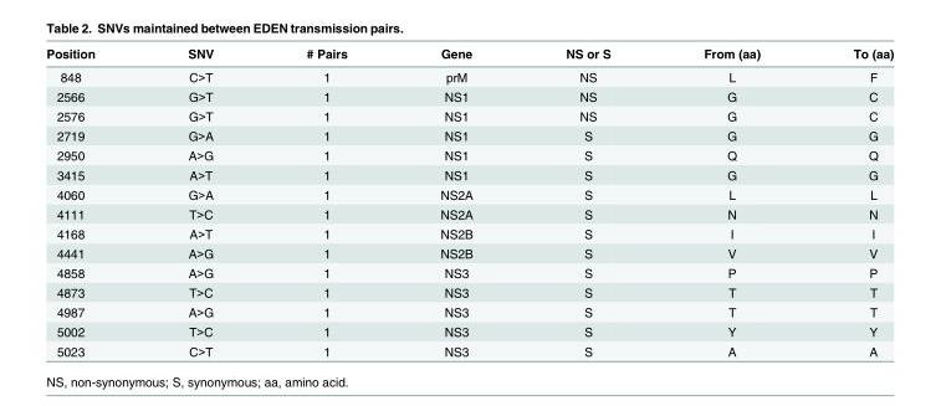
<table><thead><tr><td>Position</td><td>SNV</td><td># Pairs</td><td>Gene</td><td>NS or S</td><td>From (aa)</td><td>To (aa)</td></tr></thead><tbody><tr><td>848</td><td>C&gt;T</td><td>1</td><td>prM</td><td>NS</td><td>L</td><td>F</td></tr><tr><td>2566</td><td>G&gt;T</td><td>1</td><td>NS1</td><td>NS</td><td>G</td><td>C</td></tr><tr><td>2576</td><td>G&gt;T</td><td>1</td><td>NS1</td><td>NS</td><td>G</td><td>C</td></tr><tr><td>2719</td><td>G&gt;A</td><td>1</td><td>NS1</td><td>S</td><td>G</td><td>G</td></tr><tr><td>2950</td><td>A&gt;G</td><td>1</td><td>NS1</td><td>S</td><td>Q</td><td>Q</td></tr><tr><td>3415</td><td>A&gt;T</td><td>1</td><td>NS1</td><td>S</td><td>G</td><td>G</td></tr><tr><td>4060</td><td>G&gt;A</td><td>1</td><td>NS2A</td><td>S</td><td>L</td><td>L</td></tr><tr><td>4111</td><td>T&gt;C</td><td>1</td><td>NS2A</td><td>S</td><td>N</td><td>N</td></tr><tr><td>4168</td><td>A&gt;T</td><td>1</td><td>NS2B</td><td>S</td><td>I</td><td>I</td></tr><tr><td>4441</td><td>A&gt;G</td><td>1</td><td>NS2B</td><td>S</td><td>V</td><td>V</td></tr><tr><td>4858</td><td>A&gt;G</td><td>1</td><td>NS3</td><td>S</td><td>P</td><td>P</td></tr><tr><td>4873</td><td>T&gt;C</td><td>1</td><td>NS3</td><td>S</td><td>T</td><td>T</td></tr><tr><td>4987</td><td>A&gt;G</td><td>1</td><td>NS3</td><td>S</td><td>T</td><td>T</td></tr><tr><td>5002</td><td>T&gt;C</td><td>1</td><td>NS3</td><td>S</td><td>Y</td><td>Y</td></tr><tr><td>5023</td><td>C&gt;T</td><td>1</td><td>NS3</td><td>S</td><td>A</td><td>A</td></tr></tbody></table>